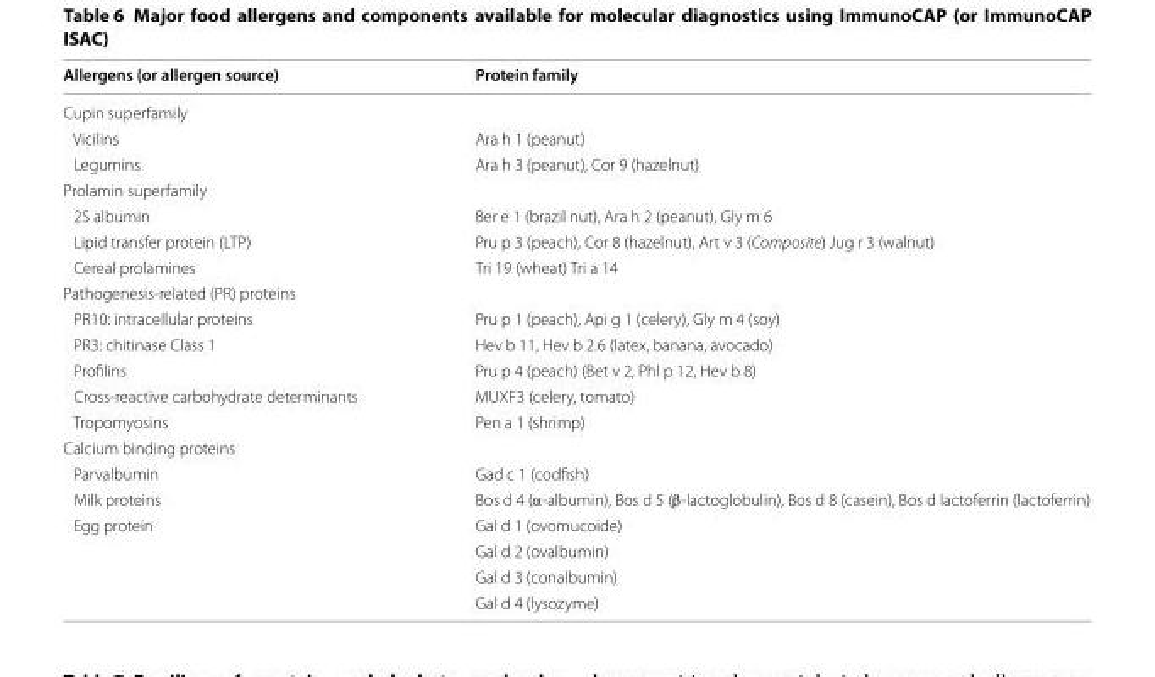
<table><thead><tr><td>Allergens (or allergen source)</td><td>Protein family</td></tr></thead><tbody><tr><td colspan="2">Cupin superfamily</td></tr><tr><td>Vicilins</td><td>Ara h 1 (peanut)</td></tr><tr><td>Legumins</td><td>Ara h 3 (peanut), Cor 9 (hazelnut)</td></tr><tr><td colspan="2">Prolamin superfamily</td></tr><tr><td>2S albumin</td><td>Ber e 1 (brazil nut), Ara h 2 (peanut), Gly m 6</td></tr><tr><td>Lipid transfer protein (LTP)</td><td>Pru p 3 (peach), Cor 8 (hazelnut), Art v 3 (Composite) Jug r 3 (walnut)</td></tr><tr><td>Cereal prolamines</td><td>Tri 19 (wheat) Tri a 14</td></tr><tr><td colspan="2">Pathogenesis‑related (PR) proteins</td></tr><tr><td>PR10: intracellular proteins</td><td>Pru p 1 (peach), Api g 1 (celery), Gly m 4 (soy)</td></tr><tr><td>PR3: chitinase Class 1</td><td>Hev b 11, Hev b 2.6 (latex, banana, avocado)</td></tr><tr><td>Profilins</td><td>Pru p 4 (peach) (Bet v 2, Phl p 12, Hev b 8)</td></tr><tr><td>Cross‑reactive carbohydrate determinants</td><td>MUXF3 (celery, tomato)</td></tr><tr><td>Tropomyosins</td><td>Pen a 1 (shrimp)</td></tr><tr><td colspan="2">Calcium binding proteins</td></tr><tr><td>Parvalbumin</td><td>Gad c 1 (codfish)</td></tr><tr><td>Milk proteins</td><td>Bos d 4 (α‑albumin), Bos d 5 (β‑lactoglobulin), Bos d 8 (casein), Bos d lactoferrin (lactoferrin)</td></tr><tr><td rowspan="4">Egg protein</td><td>Gal d 1 (ovomucoide)</td></tr><tr><td>Gal d 2 (ovalbumin)</td></tr><tr><td>Gal d 3 (conalbumin)</td></tr><tr><td>Gal d 4 (lysozyme)</td></tr></tbody></table>